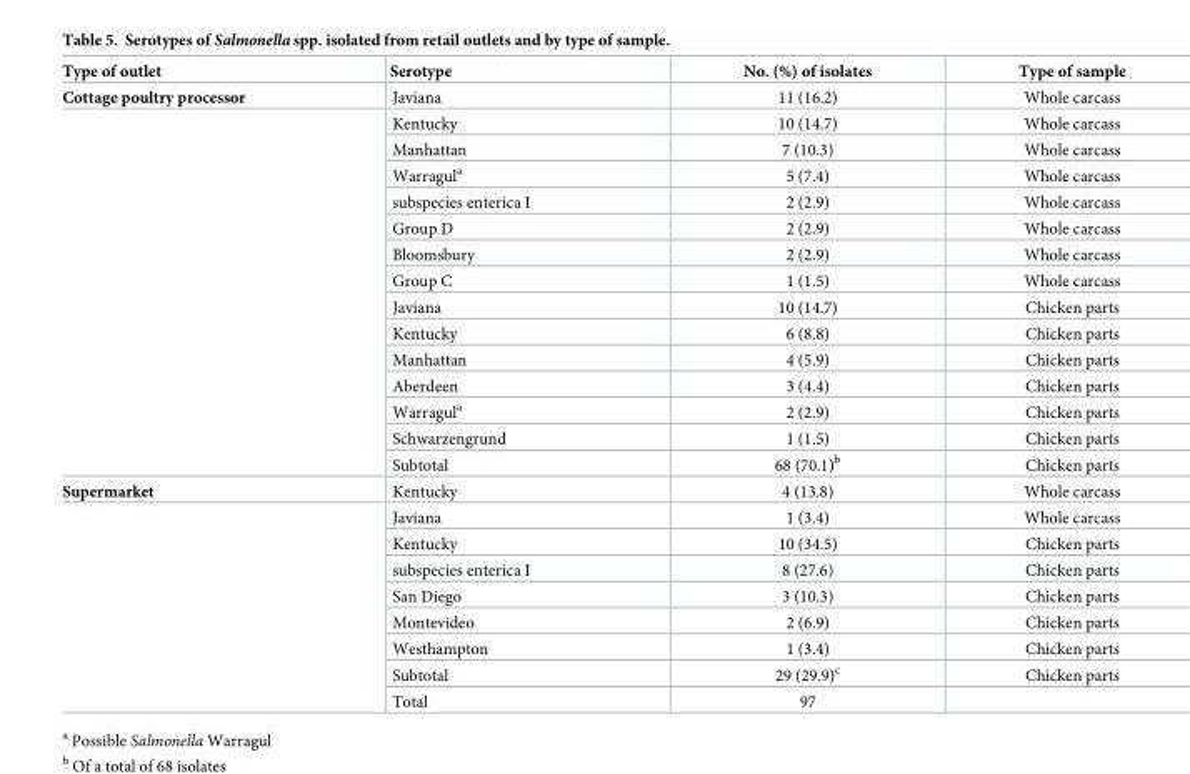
<table><thead><tr><td>Type of outlet</td><td>Serotype</td><td>No. (%) of isolates</td><td>Type of sample</td></tr></thead><tbody><tr><td rowspan="15">Cottage poultry processor</td><td>Javiana</td><td>11 (16.2)</td><td>Whole carcass</td></tr><tr><td>Kentucky</td><td>10 (14.7)</td><td>Whole carcass</td></tr><tr><td>Manhattan</td><td>7 (10.3)</td><td>Whole carcass</td></tr><tr><td>Warragul<sup>a</sup></td><td>5 (7.4)</td><td>Whole carcass</td></tr><tr><td>subspecies enterica I</td><td>2 (2.9)</td><td>Whole carcass</td></tr><tr><td>Group D</td><td>2 (2.9)</td><td>Whole carcass</td></tr><tr><td>Bloomsbury</td><td>2 (2.9)</td><td>Whole carcass</td></tr><tr><td>Group C</td><td>1 (1.5)</td><td>Whole carcass</td></tr><tr><td>Javiana</td><td>10 (14.7)</td><td>Chicken parts</td></tr><tr><td>Kentucky</td><td>6 (8.8)</td><td>Chicken parts</td></tr><tr><td>Manhattan</td><td>4 (5.9)</td><td>Chicken parts</td></tr><tr><td>Aberdeen</td><td>3 (4.4)</td><td>Chicken parts</td></tr><tr><td>Warragul<sup>a</sup></td><td>2 (2.9)</td><td>Chicken parts</td></tr><tr><td>Schwarzengrund</td><td>1 (1.5)</td><td>Chicken parts</td></tr><tr><td>Subtotal</td><td>68 (70.1)<sup>b</sup></td><td>Chicken parts</td></tr><tr><td rowspan="9">Supermarket</td><td>Kentucky</td><td>4 (13.8)</td><td>Whole carcass</td></tr><tr><td>Javiana</td><td>1 (3.4)</td><td>Whole carcass</td></tr><tr><td>Kentucky</td><td>10 (34.5)</td><td>Chicken parts</td></tr><tr><td>subspecies enterica I</td><td>8 (27.6)</td><td>Chicken parts</td></tr><tr><td>San Diego</td><td>3 (10.3)</td><td>Chicken parts</td></tr><tr><td>Montevideo</td><td>2 (6.9)</td><td>Chicken parts</td></tr><tr><td>Westhampton</td><td>1 (3.4)</td><td>Chicken parts</td></tr><tr><td>Subtotal</td><td>29 (29.9)<sup>c</sup></td><td>Chicken parts</td></tr><tr><td>Total</td><td>97</td><td></td></tr></tbody></table>